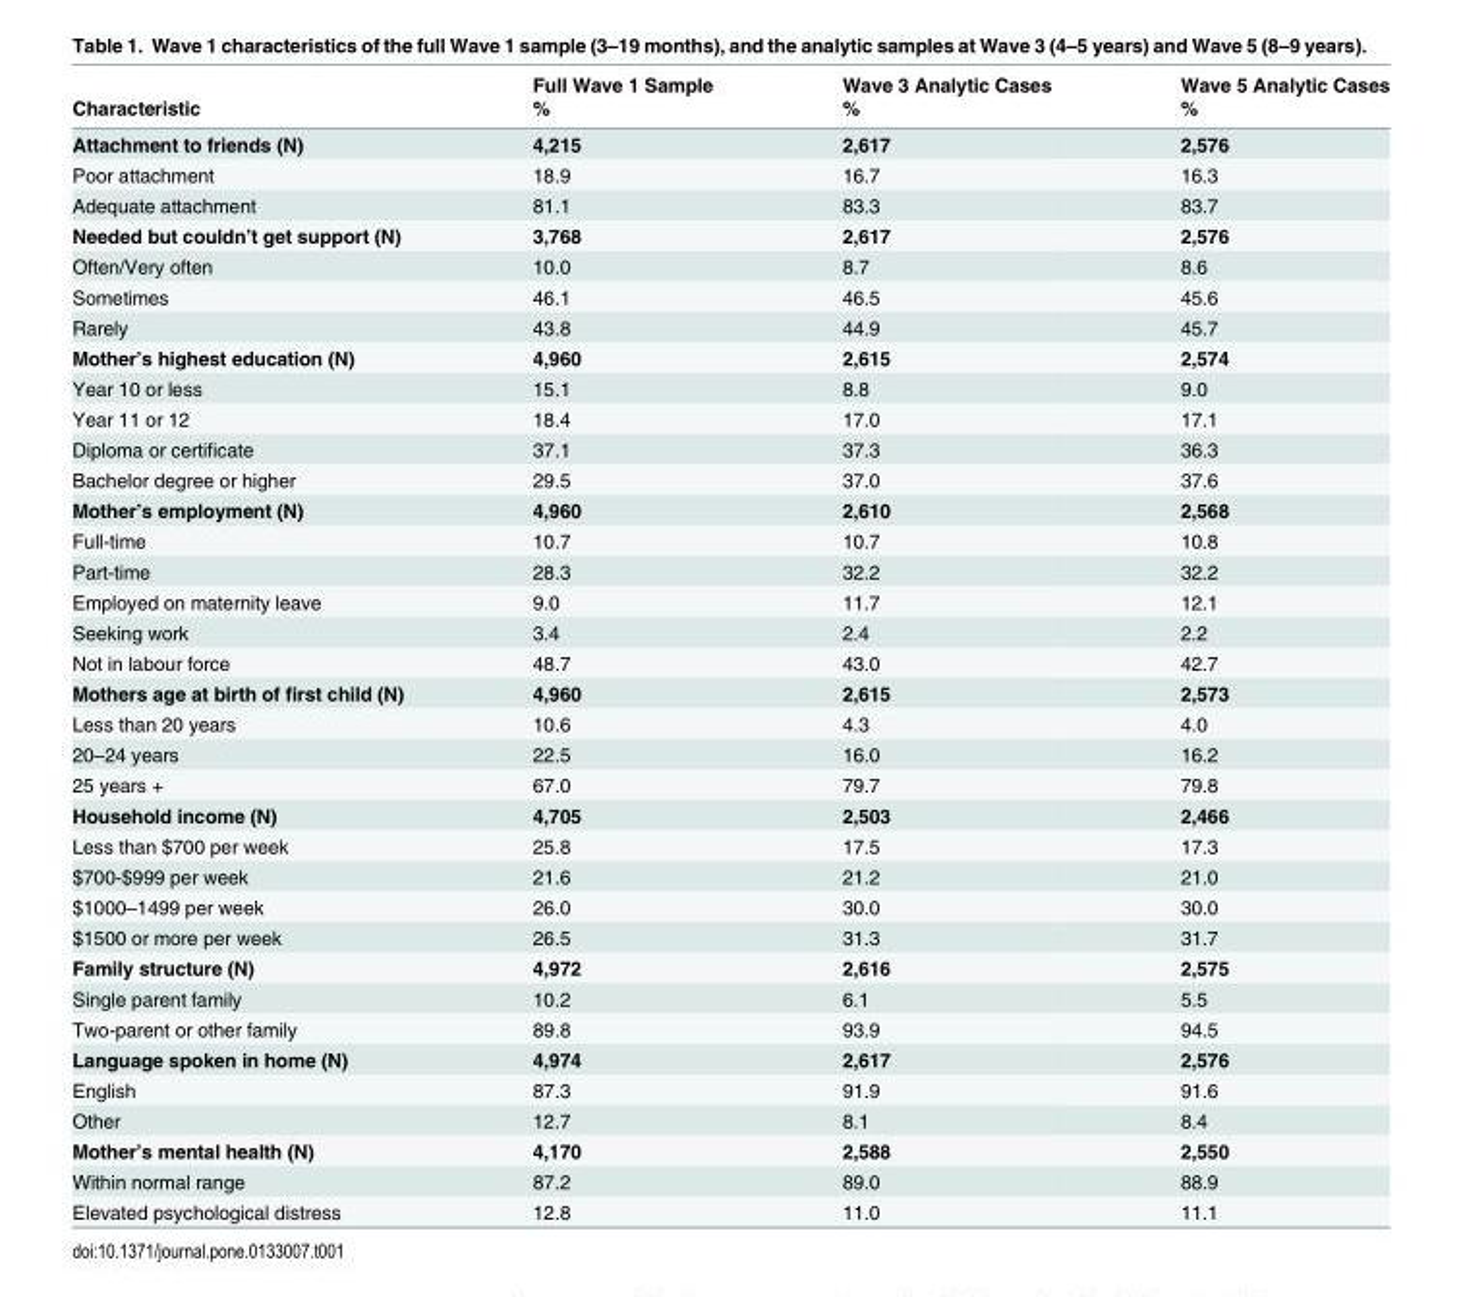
<table><thead><tr><td rowspan="2">Characteristic</td><td rowspan="2">Full Wave 1 Sample %</td><td rowspan="2">Wave 3 Analytic Cases %</td><td rowspan="2">Wave 5 Analytic Cases %</td></tr><tr></tr></thead><tbody><tr><td>Attachment to friends (N)</td><td>4,215</td><td>2,617</td><td>2,576</td></tr><tr><td>Poor attachment</td><td>18.9</td><td>16.7</td><td>16.3</td></tr><tr><td>Adequate attachment</td><td>81.1</td><td>83.3</td><td>83.7</td></tr><tr><td>Needed but couldn’t get support (N)</td><td>3,768</td><td>2,617</td><td>2,576</td></tr><tr><td>Often/Very often</td><td>10.0</td><td>8.7</td><td>8.6</td></tr><tr><td>Sometimes</td><td>46.1</td><td>46.5</td><td>45.6</td></tr><tr><td>Rarely</td><td>43.8</td><td>44.9</td><td>45.7</td></tr><tr><td>Mother’s highest education (N)</td><td>4,960</td><td>2,615</td><td>2,574</td></tr><tr><td>Year 10 or less</td><td>15.1</td><td>8.8</td><td>9.0</td></tr><tr><td>Year 11 or 12</td><td>18.4</td><td>17.0</td><td>17.1</td></tr><tr><td>Diploma or certificate</td><td>37.1</td><td>37.3</td><td>36.3</td></tr><tr><td>Bachelor degree or higher</td><td>29.5</td><td>37.0</td><td>37.6</td></tr><tr><td>Mother’s employment (N)</td><td>4,960</td><td>2,610</td><td>2,568</td></tr><tr><td>Full-time</td><td>10.7</td><td>10.7</td><td>10.8</td></tr><tr><td>Part-time</td><td>28.3</td><td>32.2</td><td>32.2</td></tr><tr><td>Employed on maternity leave</td><td>9.0</td><td>11.7</td><td>12.1</td></tr><tr><td>Seeking work</td><td>3.4</td><td>2.4</td><td>2.2</td></tr><tr><td>Not in labour force</td><td>48.7</td><td>43.0</td><td>42.7</td></tr><tr><td>Mothers age at birth of first child (N)</td><td>4,960</td><td>2,615</td><td>2,573</td></tr><tr><td>Less than 20 years</td><td>10.6</td><td>4.3</td><td>4.0</td></tr><tr><td>20–24 years</td><td>22.5</td><td>16.0</td><td>16.2</td></tr><tr><td>25 years +</td><td>67.0</td><td>79.7</td><td>79.8</td></tr><tr><td>Household income (N)</td><td>4,705</td><td>2,503</td><td>2,466</td></tr><tr><td>Less than $700 per week</td><td>25.8</td><td>17.5</td><td>17.3</td></tr><tr><td>$700-$999 per week</td><td>21.6</td><td>21.2</td><td>21.0</td></tr><tr><td>$1000–1499 per week</td><td>26.0</td><td>30.0</td><td>30.0</td></tr><tr><td>$1500 or more per week</td><td>26.5</td><td>31.3</td><td>31.7</td></tr><tr><td>Family structure (N)</td><td>4,972</td><td>2,616</td><td>2,575</td></tr><tr><td>Single parent family</td><td>10.2</td><td>6.1</td><td>5.5</td></tr><tr><td>Two-parent or other family</td><td>89.8</td><td>93.9</td><td>94.5</td></tr><tr><td>Language spoken in home (N)</td><td>4,974</td><td>2,617</td><td>2,576</td></tr><tr><td>English</td><td>87.3</td><td>91.9</td><td>91.6</td></tr><tr><td>Other</td><td>12.7</td><td>8.1</td><td>8.4</td></tr><tr><td>Mother’s mental health (N)</td><td>4,170</td><td>2,588</td><td>2,550</td></tr><tr><td>Within normal range</td><td>87.2</td><td>89.0</td><td>88.9</td></tr><tr><td>Elevated psychological distress</td><td>12.8</td><td>11.0</td><td>11.1</td></tr></tbody></table>